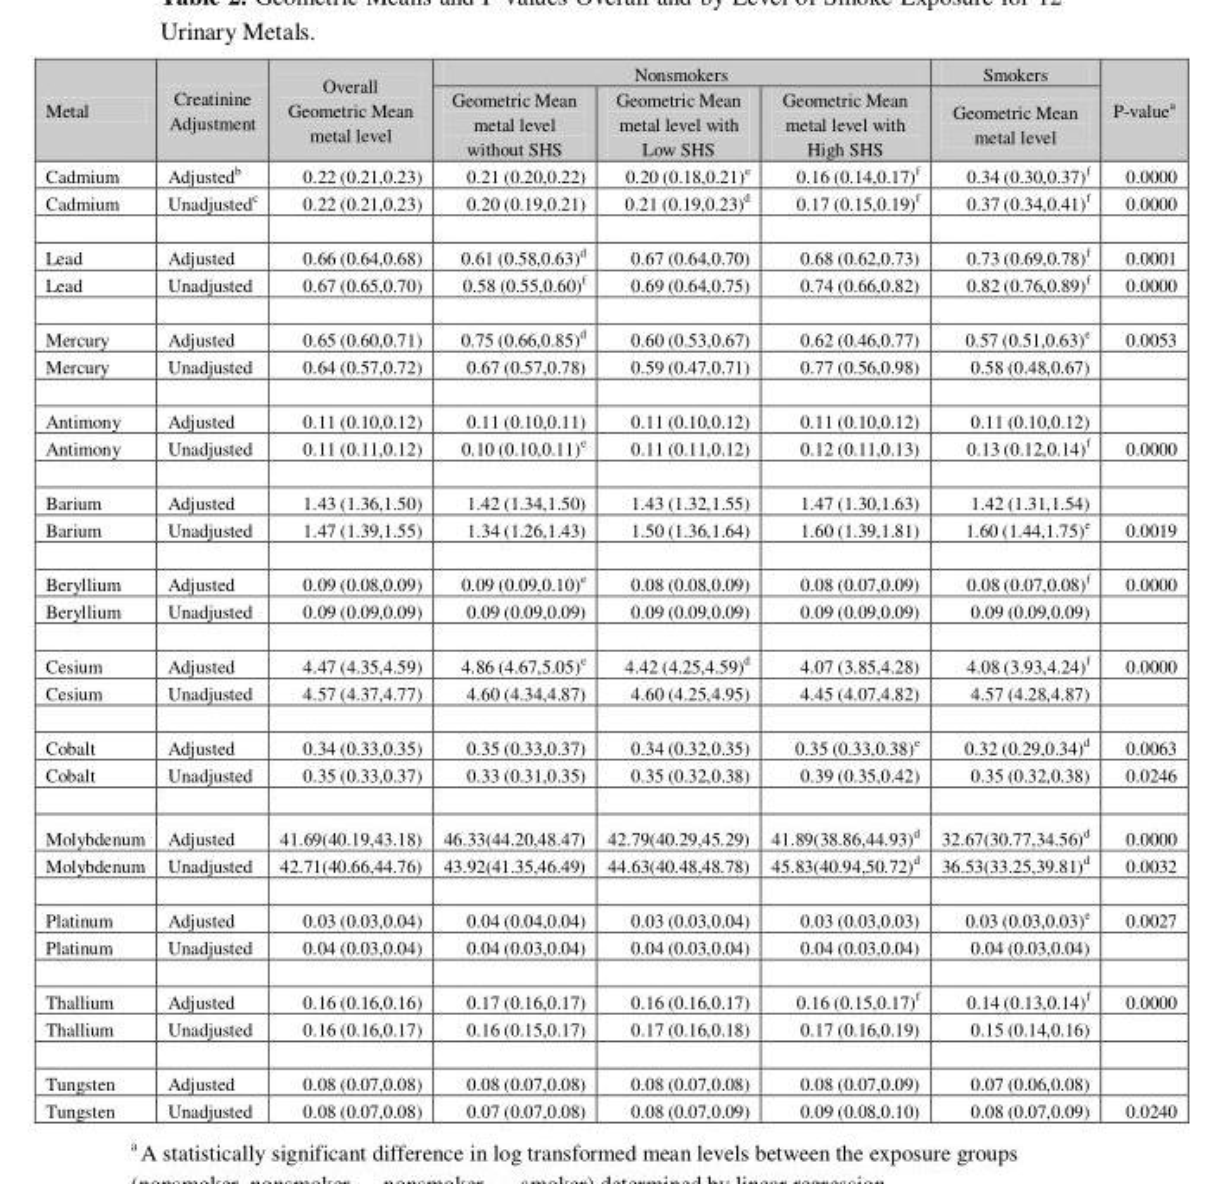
<table><thead><tr><td rowspan="2">Metal</td><td rowspan="2">Creatinine Adjustment</td><td rowspan="2">Overall Geometric Mean metal level</td><td colspan="3">Nonsmokers</td><td rowspan="2">Smokers Geometric Mean metal level</td><td rowspan="2">P-value<sup>a</sup></td></tr><tr><td>Geometric Mean metal level without SHS</td><td>Geometric Mean metal level with Low SHS</td><td>Geometric Mean metal level with High SHS</td></tr></thead><tbody><tr><td>Cadmium</td><td>Adjusted<sup>b</sup></td><td>0.22 (0.21,0.23)</td><td>0.21 (0.20,0.22)</td><td>0.20 (0.18,0.21)<sup>e</sup></td><td>0.16 (0.14,0.17)<sup>f</sup></td><td>0.34 (0.30,0.37)<sup>f</sup></td><td>0.0000</td></tr><tr><td>Cadmium</td><td>Unadjusted<sup>c</sup></td><td>0.22 (0.21,0.23)</td><td>0.20 (0.19,0.21)</td><td>0.21 (0.19,0.23)<sup>d</sup></td><td>0.17 (0.15,0.19)<sup>f</sup></td><td>0.37 (0.34,0.41)<sup>f</sup></td><td>0.0000</td></tr><tr><td>Lead</td><td>Adjusted</td><td>0.66 (0.64,0.68)</td><td>0.61 (0.58,0.63)<sup>d</sup></td><td>0.67 (0.64,0.70)</td><td>0.68 (0.62,0.73)</td><td>0.73 (0.69,0.78)<sup>f</sup></td><td>0.0001</td></tr><tr><td>Lead</td><td>Unadjusted</td><td>0.67 (0.65,0.70)</td><td>0.58 (0.55,0.60)<sup>f</sup></td><td>0.69 (0.64,0.75)</td><td>0.74 (0.66,0.82)</td><td>0.82 (0.76,0.89)<sup>f</sup></td><td>0.0000</td></tr><tr><td>Mercury</td><td>Adjusted</td><td>0.65 (0.60,0.71)</td><td>0.75 (0.66,0.85)<sup>d</sup></td><td>0.60 (0.53,0.67)</td><td>0.62 (0.46,0.77)</td><td>0.57 (0.51,0.63)<sup>e</sup></td><td>0.0053</td></tr><tr><td>Mercury</td><td>Unadjusted</td><td>0.64 (0.57,0.72)</td><td>0.67 (0.57,0.78)</td><td>0.59 (0.47,0.71)</td><td>0.77 (0.56,0.98)</td><td>0.58 (0.48,0.67)</td><td></td></tr><tr><td>Antimony</td><td>Adjusted</td><td>0.11 (0.10,0.12)</td><td>0.11 (0.10,0.11)</td><td>0.11 (0.10,0.12)</td><td>0.11 (0.10,0.12)</td><td>0.11 (0.10,0.12)</td><td></td></tr><tr><td>Antimony</td><td>Unadjusted</td><td>0.11 (0.11,0.12)</td><td>0.10 (0.10,0.11)<sup>e</sup></td><td>0.11 (0.11,0.12)</td><td>0.12 (0.11,0.13)</td><td>0.13 (0.12,0.14)<sup>f</sup></td><td>0.0000</td></tr><tr><td>Barium</td><td>Adjusted</td><td>1.43 (1.36,1.50)</td><td>1.42 (1.34,1.50)</td><td>1.43 (1.32,1.55)</td><td>1.47 (1.30,1.63)</td><td>1.42 (1.31,1.54)</td><td></td></tr><tr><td>Barium</td><td>Unadjusted</td><td>1.47 (1.39,1.55)</td><td>1.34 (1.26,1.43)</td><td>1.50 (1.36,1.64)</td><td>1.60 (1.39,1.81)</td><td>1.60 (1.44,1.75)<sup>e</sup></td><td>0.0019</td></tr><tr><td>Beryllium</td><td>Adjusted</td><td>0.09 (0.08,0.09)</td><td>0.09 (0.09,0.10)<sup>e</sup></td><td>0.08 (0.08,0.09)</td><td>0.08 (0.07,0.09)</td><td>0.08 (0.07,0.08)<sup>f</sup></td><td>0.0000</td></tr><tr><td>Beryllium</td><td>Unadjusted</td><td>0.09 (0.09,0.09)</td><td>0.09 (0.09,0.09)</td><td>0.09 (0.09,0.09)</td><td>0.09 (0.09,0.09)</td><td>0.09 (0.09,0.09)</td><td></td></tr><tr><td>Cesium</td><td>Adjusted</td><td>4.47 (4.35,4.59)</td><td>4.86 (4.67,5.05)<sup>e</sup></td><td>4.42 (4.25,4.59)<sup>d</sup></td><td>4.07 (3.85,4.28)</td><td>4.08 (3.93,4.24)<sup>f</sup></td><td>0.0000</td></tr><tr><td>Cesium</td><td>Unadjusted</td><td>4.57 (4.37,4.77)</td><td>4.60 (4.34,4.87)</td><td>4.60 (4.25,4.95)</td><td>4.45 (4.07,4.82)</td><td>4.57 (4.28,4.87)</td><td></td></tr><tr><td>Cobalt</td><td>Adjusted</td><td>0.34 (0.33,0.35)</td><td>0.35 (0.33,0.37)</td><td>0.34 (0.32,0.35)</td><td>0.35 (0.33,0.38)<sup>e</sup></td><td>0.32 (0.29,0.34)<sup>d</sup></td><td>0.0063</td></tr><tr><td>Cobalt</td><td>Unadjusted</td><td>0.35 (0.33,0.37)</td><td>0.33 (0.31,0.35)</td><td>0.35 (0.32,0.38)</td><td>0.39 (0.35,0.42)</td><td>0.35 (0.32,0.38)</td><td>0.0246</td></tr><tr><td>Molybdenum</td><td>Adjusted</td><td>41.69(40.19,43.18)</td><td>46.33(44.20,48.47)</td><td>42.79(40.29,45.29)</td><td>41.89(38.86,44.93)<sup>d</sup></td><td>32.67(30.77,34.56)<sup>d</sup></td><td>0.0000</td></tr><tr><td>Molybdenum</td><td>Unadjusted</td><td>42.71(40.66,44.76)</td><td>43.92(41.35,46.49)</td><td>44.63(40.48,48.78)</td><td>45.83(40.94,50.72)<sup>d</sup></td><td>36.53(33.25,39.81)<sup>d</sup></td><td>0.0032</td></tr><tr><td>Platinum</td><td>Adjusted</td><td>0.03 (0.03,0.04)</td><td>0.04 (0.04,0.04)</td><td>0.03 (0.03,0.04)</td><td>0.03 (0.03,0.03)</td><td>0.03 (0.03,0.03)<sup>e</sup></td><td>0.0027</td></tr><tr><td>Platinum</td><td>Unadjusted</td><td>0.04 (0.03,0.04)</td><td>0.04 (0.03,0.04)</td><td>0.04 (0.03,0.04)</td><td>0.04 (0.03,0.04)</td><td>0.04 (0.03,0.04)</td><td></td></tr><tr><td>Thallium</td><td>Adjusted</td><td>0.16 (0.16,0.16)</td><td>0.17 (0.16,0.17)</td><td>0.16 (0.16,0.17)</td><td>0.16 (0.15,0.17)<sup>f</sup></td><td>0.14 (0.13,0.14)<sup>f</sup></td><td>0.0000</td></tr><tr><td>Thallium</td><td>Unadjusted</td><td>0.16 (0.16,0.17)</td><td>0.16 (0.15,0.17)</td><td>0.17 (0.16,0.18)</td><td>0.17 (0.16,0.19)</td><td>0.15 (0.14,0.16)</td><td></td></tr><tr><td>Tungsten</td><td>Adjusted</td><td>0.08 (0.07,0.08)</td><td>0.08 (0.07,0.08)</td><td>0.08 (0.07,0.08)</td><td>0.08 (0.07,0.09)</td><td>0.07 (0.06,0.08)</td><td></td></tr><tr><td>Tungsten</td><td>Unadjusted</td><td>0.08 (0.07,0.08)</td><td>0.07 (0.07,0.08)</td><td>0.08 (0.07,0.09)</td><td>0.09 (0.08,0.10)</td><td>0.08 (0.07,0.09)</td><td>0.0240</td></tr></tbody></table>